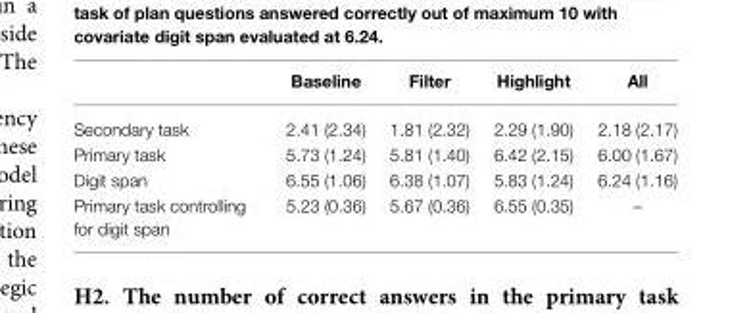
<table><thead><tr><td></td><td>Baseline</td><td>Filter</td><td>Highlight</td><td>All</td></tr></thead><tbody><tr><td>Secondary task</td><td>2.41 (2.34)</td><td>1.81 (2.32)</td><td>2.29 (1.90)</td><td>2.18 (2.17)</td></tr><tr><td>Primary task</td><td>5.73 (1.24)</td><td>5.81 (1.40)</td><td>6.42 (2.15)</td><td>6.00 (1.67)</td></tr><tr><td>Digit span</td><td>6.55 (1.06)</td><td>6.38 (1.07)</td><td>5.83 (1.24)</td><td>6.24 (1.16)</td></tr><tr><td>Primary task controlling for digit span</td><td>5.23 (0.36)</td><td>5.67 (0.36)</td><td>6.55 (0.35)</td><td>–</td></tr></tbody></table>